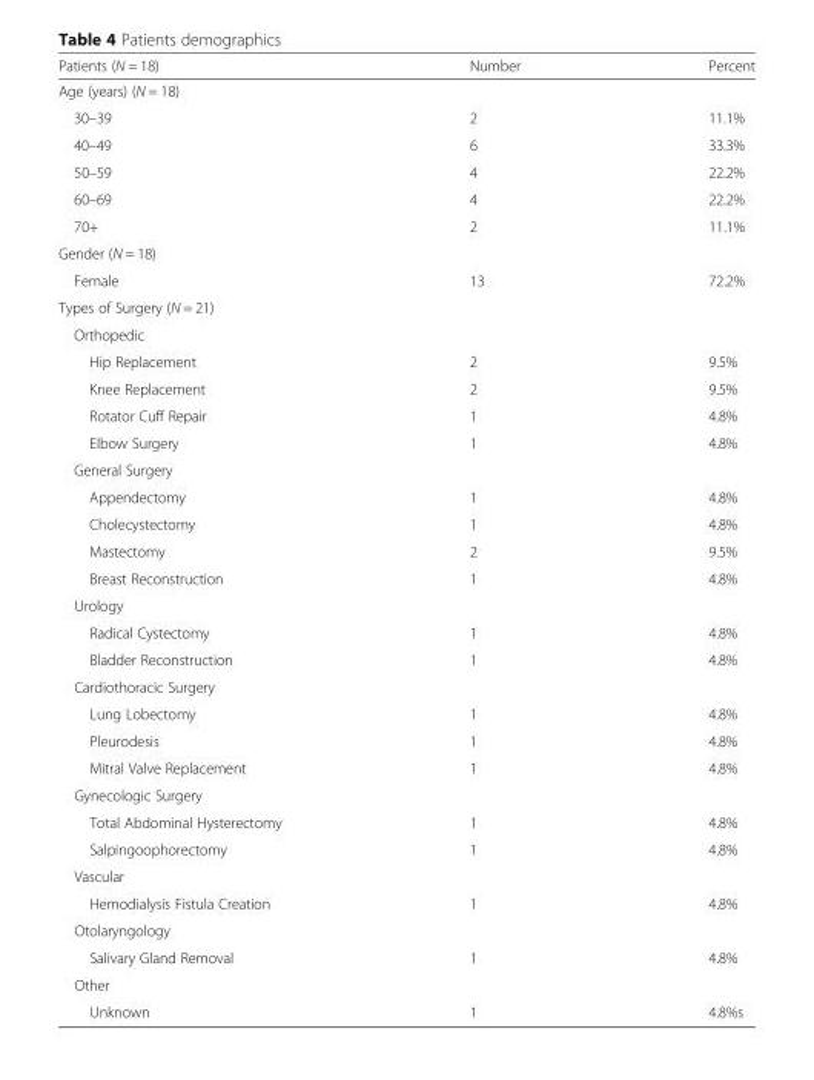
<table><thead><tr><td>Patients (N = 18)</td><td>Number</td><td>Percent</td></tr></thead><tbody><tr><td colspan="3">Age (years) (N = 18)</td></tr><tr><td>30–39</td><td>2</td><td>11.1%</td></tr><tr><td>40–49</td><td>6</td><td>33.3%</td></tr><tr><td>50–59</td><td>4</td><td>22.2%</td></tr><tr><td>60–69</td><td>4</td><td>22.2%</td></tr><tr><td>70+</td><td>2</td><td>11.1%</td></tr><tr><td colspan="3">Gender (N = 18)</td></tr><tr><td>Female</td><td>13</td><td>72.2%</td></tr><tr><td colspan="3">Types of Surgery (N = 21)</td></tr><tr><td colspan="3">Orthopedic</td></tr><tr><td>Hip Replacement</td><td>2</td><td>9.5%</td></tr><tr><td>Knee Replacement</td><td>2</td><td>9.5%</td></tr><tr><td>Rotator Cuff Repair</td><td>1</td><td>4.8%</td></tr><tr><td>Elbow Surgery</td><td>1</td><td>4.8%</td></tr><tr><td colspan="3">General Surgery</td></tr><tr><td>Appendectomy</td><td>1</td><td>4.8%</td></tr><tr><td>Cholecystectomy</td><td>1</td><td>4.8%</td></tr><tr><td>Mastectomy</td><td>2</td><td>9.5%</td></tr><tr><td>Breast Reconstruction</td><td>1</td><td>4.8%</td></tr><tr><td colspan="3">Urology</td></tr><tr><td>Radical Cystectomy</td><td>1</td><td>4.8%</td></tr><tr><td>Bladder Reconstruction</td><td>1</td><td>4.8%</td></tr><tr><td colspan="3">Cardiothoracic Surgery</td></tr><tr><td>Lung Lobectomy</td><td>1</td><td>4.8%</td></tr><tr><td>Pleurodesis</td><td>1</td><td>4.8%</td></tr><tr><td>Mitral Valve Replacement</td><td>1</td><td>4.8%</td></tr><tr><td colspan="3">Gynecologic Surgery</td></tr><tr><td>Total Abdominal Hysterectomy</td><td>1</td><td>4.8%</td></tr><tr><td>Salpingoophorectomy</td><td>1</td><td>4.8%</td></tr><tr><td colspan="3">Vascular</td></tr><tr><td>Hemodialysis Fistula Creation</td><td>1</td><td>4.8%</td></tr><tr><td colspan="3">Otolaryngology</td></tr><tr><td>Salivary Gland Removal</td><td>1</td><td>4.8%</td></tr><tr><td colspan="3">Other</td></tr><tr><td>Unknown</td><td>1</td><td>4.8%s</td></tr></tbody></table>